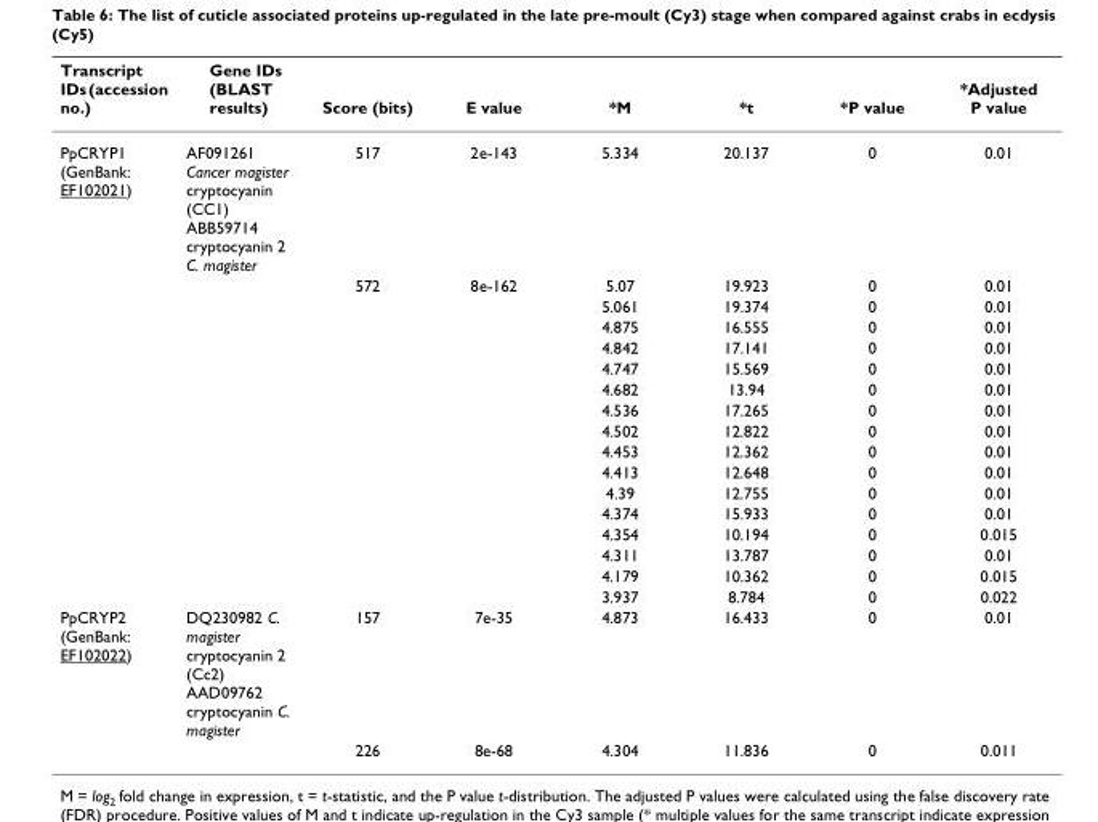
<table><thead><tr><td>Transcript IDs (accession no.)</td><td>Gene IDs (BLAST results)</td><td>Score (bits)</td><td>E value</td><td>*M</td><td>*t</td><td>*P value</td><td>*Adjusted P value</td></tr></thead><tbody><tr><td rowspan="17">PpCRYP1 (GenBank: EF102021)</td><td>AF091261 Cancer magister cryptocyanin (CC1) ABB59714 cryptocyanin 2 C. magister</td><td>517</td><td>2e-143</td><td>5.334</td><td>20.137</td><td>0</td><td>0.01</td></tr><tr><td></td><td>572</td><td>8e-162</td><td>5.07</td><td>19.923</td><td>0</td><td>0.01</td></tr><tr><td></td><td></td><td></td><td>5.061</td><td>19.374</td><td>0</td><td>0.01</td></tr><tr><td></td><td></td><td></td><td>4.875</td><td>16.555</td><td>0</td><td>0.01</td></tr><tr><td></td><td></td><td></td><td>4.842</td><td>17.141</td><td>0</td><td>0.01</td></tr><tr><td></td><td></td><td></td><td>4.747</td><td>15.569</td><td>0</td><td>0.01</td></tr><tr><td></td><td></td><td></td><td>4.682</td><td>13.94</td><td>0</td><td>0.01</td></tr><tr><td></td><td></td><td></td><td>4.536</td><td>17.265</td><td>0</td><td>0.01</td></tr><tr><td></td><td></td><td></td><td>4.502</td><td>12.822</td><td>0</td><td>0.01</td></tr><tr><td></td><td></td><td></td><td>4.453</td><td>12.362</td><td>0</td><td>0.01</td></tr><tr><td></td><td></td><td></td><td>4.413</td><td>12.648</td><td>0</td><td>0.01</td></tr><tr><td></td><td></td><td></td><td>4.39</td><td>12.755</td><td>0</td><td>0.01</td></tr><tr><td></td><td></td><td></td><td>4.374</td><td>15.933</td><td>0</td><td>0.01</td></tr><tr><td></td><td></td><td></td><td>4.354</td><td>10.194</td><td>0</td><td>0.015</td></tr><tr><td></td><td></td><td></td><td>4.311</td><td>13.787</td><td>0</td><td>0.01</td></tr><tr><td></td><td></td><td></td><td>4.179</td><td>10.362</td><td>0</td><td>0.015</td></tr><tr><td></td><td></td><td></td><td>3.937</td><td>8.784</td><td>0</td><td>0.022</td></tr><tr><td rowspan="2">PpCRYP2 (GenBank: EF102022)</td><td>DQ230982 C. magister cryptocyanin 2 (Cc2) AAD09762 cryptocyanin C. magister</td><td>157</td><td>7e-35</td><td>4.873</td><td>16.433</td><td>0</td><td>0.01</td></tr><tr><td></td><td>226</td><td>8e-68</td><td>4.304</td><td>11.836</td><td>0</td><td>0.011</td></tr></tbody></table>